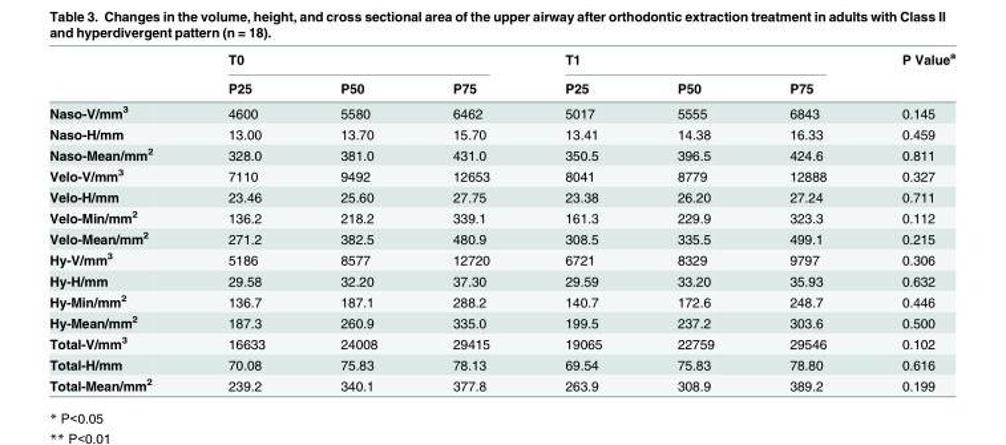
<table><thead><tr><td rowspan="2"></td><td colspan="3">T0</td><td colspan="3">T1</td><td rowspan="2">P Value<sup>a</sup></td></tr><tr><td>P25</td><td>P50</td><td>P75</td><td>P25</td><td>P50</td><td>P75</td></tr></thead><tbody><tr><td>Naso-V/mm<sup>3</sup></td><td>4600</td><td>5580</td><td>6462</td><td>5017</td><td>5555</td><td>6843</td><td>0.145</td></tr><tr><td>Naso-H/mm</td><td>13.00</td><td>13.70</td><td>15.70</td><td>13.41</td><td>14.38</td><td>16.33</td><td>0.459</td></tr><tr><td>Naso-Mean/mm<sup>2</sup></td><td>328.0</td><td>381.0</td><td>431.0</td><td>350.5</td><td>396.5</td><td>424.6</td><td>0.811</td></tr><tr><td>Velo-V/mm<sup>3</sup></td><td>7110</td><td>9492</td><td>12653</td><td>8041</td><td>8779</td><td>12888</td><td>0.327</td></tr><tr><td>Velo-H/mm</td><td>23.46</td><td>25.60</td><td>27.75</td><td>23.38</td><td>26.20</td><td>27.24</td><td>0.711</td></tr><tr><td>Velo-Min/mm<sup>2</sup></td><td>136.2</td><td>218.2</td><td>339.1</td><td>161.3</td><td>229.9</td><td>323.3</td><td>0.112</td></tr><tr><td>Velo-Mean/mm<sup>2</sup></td><td>271.2</td><td>382.5</td><td>480.9</td><td>308.5</td><td>335.5</td><td>499.1</td><td>0.215</td></tr><tr><td>Hy-V/mm<sup>3</sup></td><td>5186</td><td>8577</td><td>12720</td><td>6721</td><td>8329</td><td>9797</td><td>0.306</td></tr><tr><td>Hy-H/mm</td><td>29.58</td><td>32.20</td><td>37.30</td><td>29.59</td><td>33.20</td><td>35.93</td><td>0.632</td></tr><tr><td>Hy-Min/mm<sup>2</sup></td><td>136.7</td><td>187.1</td><td>288.2</td><td>140.7</td><td>172.6</td><td>248.7</td><td>0.446</td></tr><tr><td>Hy-Mean/mm<sup>2</sup></td><td>187.3</td><td>260.9</td><td>335.0</td><td>199.5</td><td>237.2</td><td>303.6</td><td>0.500</td></tr><tr><td>Total-V/mm<sup>3</sup></td><td>16633</td><td>24008</td><td>29415</td><td>19065</td><td>22759</td><td>29546</td><td>0.102</td></tr><tr><td>Total-H/mm</td><td>70.08</td><td>75.83</td><td>78.13</td><td>69.54</td><td>75.83</td><td>78.80</td><td>0.616</td></tr><tr><td>Total-Mean/mm<sup>2</sup></td><td>239.2</td><td>340.1</td><td>377.8</td><td>263.9</td><td>308.9</td><td>389.2</td><td>0.199</td></tr></tbody></table>